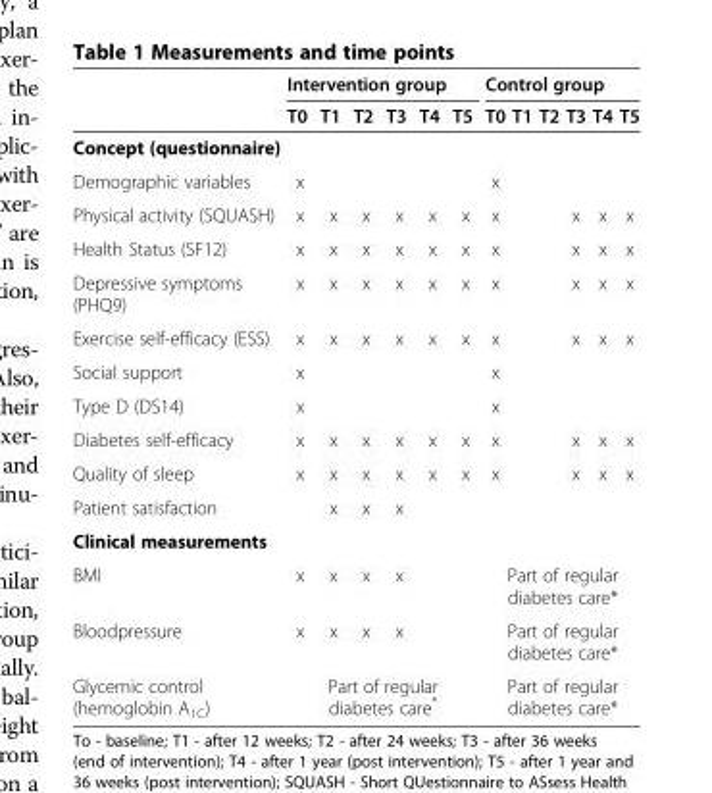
<table><thead><tr><td rowspan="2"></td><td colspan="6">Intervention group</td><td colspan="6">Control group</td></tr><tr><td>T0</td><td>T1</td><td>T2</td><td>T3</td><td>T4</td><td>T5</td><td>T0</td><td>T1</td><td>T2</td><td>T3</td><td>T4</td><td>T5</td></tr></thead><tbody><tr><td colspan="13">Concept (questionnaire)</td></tr><tr><td>Demographic variables</td><td>x</td><td></td><td></td><td></td><td></td><td></td><td>x</td><td></td><td></td><td></td><td></td><td></td></tr><tr><td>Physical activity (SQUASH)</td><td>x</td><td>x</td><td>x</td><td>x</td><td>x</td><td>x</td><td>x</td><td></td><td></td><td>x</td><td>x</td><td>x</td></tr><tr><td>Health Status (SF12)</td><td>x</td><td>x</td><td>x</td><td>x</td><td>x</td><td>x</td><td>x</td><td></td><td></td><td>x</td><td>x</td><td>x</td></tr><tr><td>Depressive symptoms (PHQ9)</td><td>x</td><td>x</td><td>x</td><td>x</td><td>x</td><td>x</td><td>x</td><td></td><td></td><td>x</td><td>x</td><td>x</td></tr><tr><td>Exercise self-efficacy (ESS)</td><td>x</td><td>x</td><td>x</td><td>x</td><td>x</td><td>x</td><td>x</td><td></td><td></td><td>x</td><td>x</td><td>x</td></tr><tr><td>Social support</td><td>x</td><td></td><td></td><td></td><td></td><td></td><td>x</td><td></td><td></td><td></td><td></td><td></td></tr><tr><td>Type D (DS14)</td><td>x</td><td></td><td></td><td></td><td></td><td></td><td>x</td><td></td><td></td><td></td><td></td><td></td></tr><tr><td>Diabetes self-efficacy</td><td>x</td><td>x</td><td>x</td><td>x</td><td>x</td><td>x</td><td>x</td><td></td><td></td><td>x</td><td>x</td><td>x</td></tr><tr><td>Quality of sleep</td><td>x</td><td>x</td><td>x</td><td>x</td><td>x</td><td>x</td><td>x</td><td></td><td></td><td>x</td><td>x</td><td>x</td></tr><tr><td>Patient satisfaction</td><td></td><td>x</td><td>x</td><td>x</td><td></td><td></td><td></td><td></td><td></td><td></td><td></td><td></td></tr><tr><td colspan="13">Clinical measurements</td></tr><tr><td>BMI</td><td>x</td><td>x</td><td>x</td><td>x</td><td></td><td></td><td colspan="6">Part of regular diabetes care*</td></tr><tr><td>Bloodpressure</td><td>x</td><td>x</td><td>x</td><td>x</td><td></td><td></td><td colspan="6">Part of regular diabetes care*</td></tr><tr><td>Glycemic control (hemoglobin A<sub>1C</sub>)</td><td colspan="6">Part of regular diabetes care*</td><td colspan="6">Part of regular diabetes care*</td></tr></tbody></table>